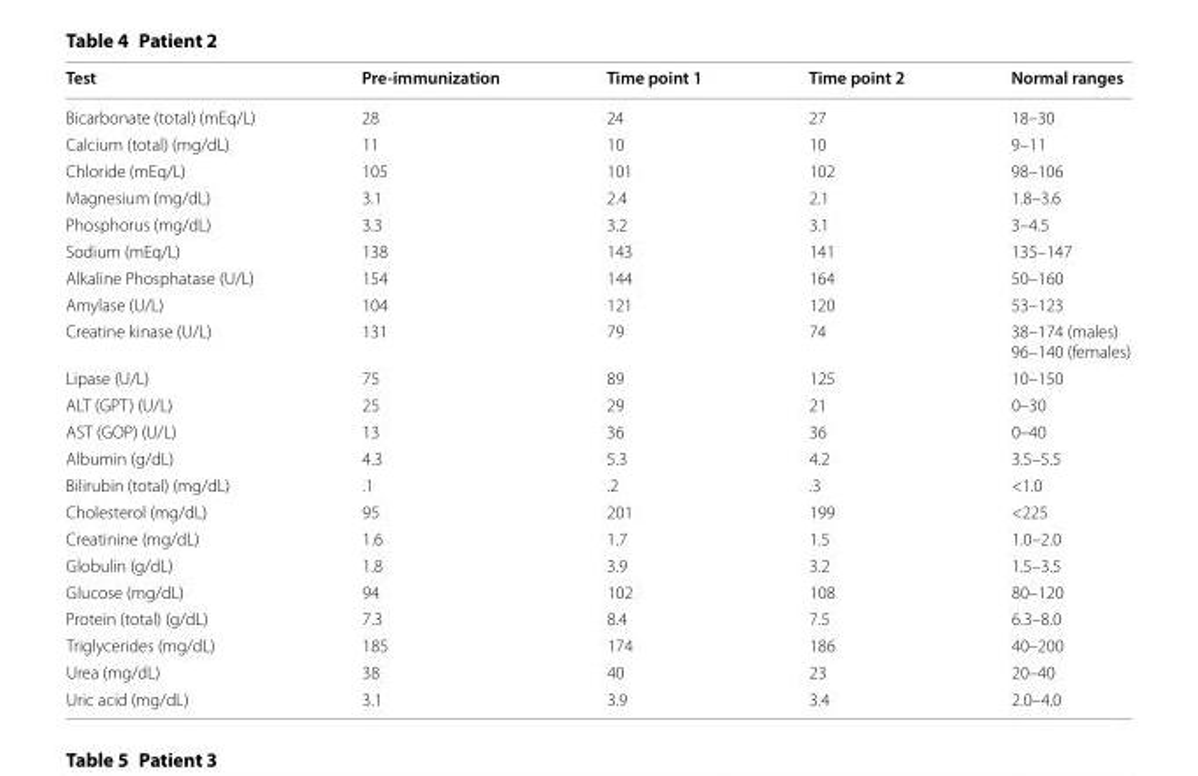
<table><thead><tr><td>Test</td><td>Pre-immunization</td><td>Time point 1</td><td>Time point 2</td><td>Normal ranges</td></tr></thead><tbody><tr><td>Bicarbonate (total) (mEq/L)</td><td>28</td><td>24</td><td>27</td><td>18–30</td></tr><tr><td>Calcium (total) (mg/dL)</td><td>11</td><td>10</td><td>10</td><td>9–11</td></tr><tr><td>Chloride (mEq/L)</td><td>105</td><td>101</td><td>102</td><td>98–106</td></tr><tr><td>Magnesium (mg/dL)</td><td>3.1</td><td>2.4</td><td>2.1</td><td>1.8–3.6</td></tr><tr><td>Phosphorus (mg/dL)</td><td>3.3</td><td>3.2</td><td>3.1</td><td>3–4.5</td></tr><tr><td>Sodium (mEq/L)</td><td>138</td><td>143</td><td>141</td><td>135–147</td></tr><tr><td>Alkaline Phosphatase (U/L)</td><td>154</td><td>144</td><td>164</td><td>50–160</td></tr><tr><td>Amylase (U/L)</td><td>104</td><td>121</td><td>120</td><td>53–123</td></tr><tr><td>Creatine kinase (U/L)</td><td>131</td><td>79</td><td>74</td><td>38–174 (males) 96–140 (females)</td></tr><tr><td>Lipase (U/L)</td><td>75</td><td>89</td><td>125</td><td>10–150</td></tr><tr><td>ALT (GPT) (U/L)</td><td>25</td><td>29</td><td>21</td><td>0–30</td></tr><tr><td>AST (GOP) (U/L)</td><td>13</td><td>36</td><td>36</td><td>0–40</td></tr><tr><td>Albumin (g/dL)</td><td>4.3</td><td>5.3</td><td>4.2</td><td>3.5–5.5</td></tr><tr><td>Bilirubin (total) (mg/dL)</td><td>.1</td><td>.2</td><td>.3</td><td>&lt;1.0</td></tr><tr><td>Cholesterol (mg/dL)</td><td>95</td><td>201</td><td>199</td><td>&lt;225</td></tr><tr><td>Creatinine (mg/dL)</td><td>1.6</td><td>1.7</td><td>1.5</td><td>1.0–2.0</td></tr><tr><td>Globulin (g/dL)</td><td>1.8</td><td>3.9</td><td>3.2</td><td>1.5–3.5</td></tr><tr><td>Glucose (mg/dL)</td><td>94</td><td>102</td><td>108</td><td>80–120</td></tr><tr><td>Protein (total) (g/dL)</td><td>7.3</td><td>8.4</td><td>7.5</td><td>6.3–8.0</td></tr><tr><td>Triglycerides (mg/dL)</td><td>185</td><td>174</td><td>186</td><td>40–200</td></tr><tr><td>Urea (mg/dL)</td><td>38</td><td>40</td><td>23</td><td>20–40</td></tr><tr><td>Uric acid (mg/dL)</td><td>3.1</td><td>3.9</td><td>3.4</td><td>2.0–4.0</td></tr></tbody></table>